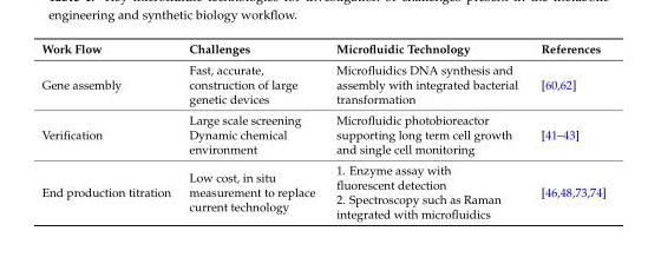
<table><thead><tr><td>Work Flow</td><td>Challenges</td><td>Microfluidic Technology</td><td>References</td></tr></thead><tbody><tr><td>Gene assembly</td><td>Fast, accurate, construction of large genetic devices</td><td>Microfluidics DNA synthesis and assembly with integrated bacterial transformation</td><td>[60,62]</td></tr><tr><td>Verification</td><td>Large scale screening Dynamic chemical environment</td><td>Microfluidic photobioreactor supporting long term cell growth and single cell monitoring</td><td>[41–43]</td></tr><tr><td>End production titration</td><td>Low cost, in situ measurement to replace current technology</td><td>1. Enzyme assay with fluorescent detection 2. Spectroscopy such as Raman integrated with microfluidics</td><td>[46,48,73,74]</td></tr></tbody></table>